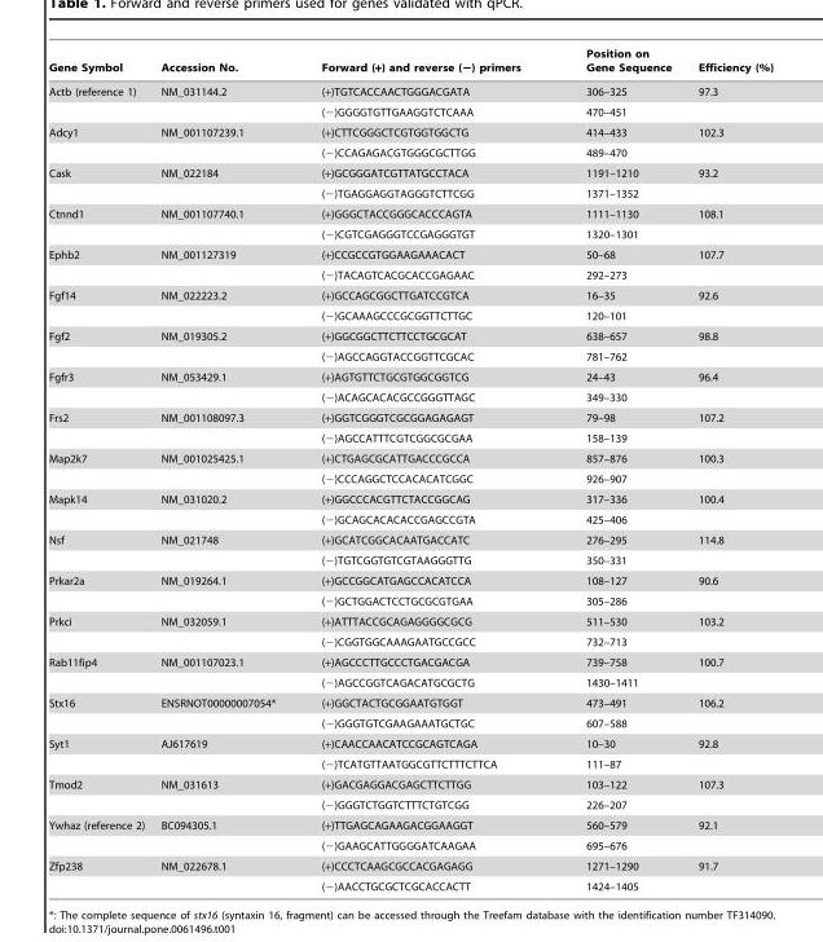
<table><thead><tr><td>Gene Symbol</td><td>Accession No.</td><td>Forward (+) and reverse (−) primers</td><td>Position on Gene Sequence</td><td>Efficiency (%)</td></tr></thead><tbody><tr><td rowspan="2">Actb (reference 1)</td><td>NM_031144.2</td><td>(+)TGTCACCAACTGGGACGATA</td><td>306–325</td><td>97.3</td></tr><tr><td></td><td>(−)GGGGTGTTGAAGGTCTCAAA</td><td>470–451</td><td></td></tr><tr><td rowspan="2">Adcy1</td><td>NM_001107239.1</td><td>(+)CTTCGGGCTCGTGGTGGCTG</td><td>414–433</td><td>102.3</td></tr><tr><td></td><td>(−)CCAGAGACGTGGGCGCTTGG</td><td>489–470</td><td></td></tr><tr><td rowspan="2">Cask</td><td>NM_022184</td><td>(+)GCGGGATCGTTATGCCTACA</td><td>1191–1210</td><td>93.2</td></tr><tr><td></td><td>(−)TGAGGAGGTAGGGTCTTCGG</td><td>1371–1352</td><td></td></tr><tr><td rowspan="2">Ctnnd1</td><td>NM_001107740.1</td><td>(+)GGGCTACCGGGCACCCAGTA</td><td>1111–1130</td><td>108.1</td></tr><tr><td></td><td>(−)CGTCGAGGGTCCGAGGGTGT</td><td>1320–1301</td><td></td></tr><tr><td rowspan="2">Ephb2</td><td>NM_001127319</td><td>(+)CCGCCGTGGAAGAAACACT</td><td>50–68</td><td>107.7</td></tr><tr><td></td><td>(−)TACAGTCACGCACCGAGAAC</td><td>292–273</td><td></td></tr><tr><td rowspan="2">Fgf14</td><td>NM_022223.2</td><td>(+)GCCAGCGGCTTGATCCGTCA</td><td>16–35</td><td>92.6</td></tr><tr><td></td><td>(−)GCAAAGCCCGCGGTTCTTGC</td><td>120–101</td><td></td></tr><tr><td rowspan="2">Fgf2</td><td>NM_019305.2</td><td>(+)GGCGGCTTCTTCCTGCGCAT</td><td>638–657</td><td>98.8</td></tr><tr><td></td><td>(−)AGCCAGGTACCGGTTCGCAC</td><td>781–762</td><td></td></tr><tr><td rowspan="2">Fgfr3</td><td>NM_053429.1</td><td>(+)AGTGTTCTGCGTGGCGGTCG</td><td>24–43</td><td>96.4</td></tr><tr><td></td><td>(−)ACAGCACACGCCGGGTTAGC</td><td>349–330</td><td></td></tr><tr><td rowspan="2">Frs2</td><td>NM_001108097.3</td><td>(+)GGTCGGGTCGCGGAGAGAGT</td><td>79–98</td><td>107.2</td></tr><tr><td></td><td>(−)AGCCATTTCGTCGGCGCGAA</td><td>158–139</td><td></td></tr><tr><td rowspan="2">Map2k7</td><td>NM_001025425.1</td><td>(+)CTGAGCGCATTGACCCGCCA</td><td>857–876</td><td>100.3</td></tr><tr><td></td><td>(−)CCCAGGCTCCACACATCGGC</td><td>926–907</td><td></td></tr><tr><td rowspan="2">Mapk14</td><td>NM_031020.2</td><td>(+)GGCCCACGTTCTACCGGCAG</td><td>317–336</td><td>100.4</td></tr><tr><td></td><td>(−)GCAGCACACACCGAGCCGTA</td><td>425–406</td><td></td></tr><tr><td rowspan="2">Nsf</td><td>NM_021748</td><td>(+)GCATCGGCACAATGACCATC</td><td>276–295</td><td>114.8</td></tr><tr><td></td><td>(−)TGTCGGTGTCGTAAGGGTTG</td><td>350–331</td><td></td></tr><tr><td rowspan="2">Prkar2a</td><td>NM_019264.1</td><td>(+)GCCGGCATGAGCCACATCCA</td><td>108–127</td><td>90.6</td></tr><tr><td></td><td>(−)GCTGGACTCCTGCGCGTGAA</td><td>305–286</td><td></td></tr><tr><td rowspan="2">Prkci</td><td>NM_032059.1</td><td>(+)ATTTACCGCAGAGGGGCGCG</td><td>511–530</td><td>103.2</td></tr><tr><td></td><td>(−)CGGTGGCAAAGAATGCCGCC</td><td>732–713</td><td></td></tr><tr><td rowspan="2">Rab11fip4</td><td>NM_001107023.1</td><td>(+)AGCCCTTGCCCTGACGACGA</td><td>739–758</td><td>100.7</td></tr><tr><td></td><td>(−)AGCCGGTCAGACATGCGCTG</td><td>1430–1411</td><td></td></tr><tr><td rowspan="2">Stx16</td><td>ENSRNOT00000007054*</td><td>(+)GGCTACTGCGGAATGTGGT</td><td>473–491</td><td>106.2</td></tr><tr><td></td><td>(−)GGGTGTCGAAGAAATGCTGC</td><td>607–588</td><td></td></tr><tr><td rowspan="2">Syt1</td><td>AJ617619</td><td>(+)CAACCAACATCCGCAGTCAGA</td><td>10–30</td><td>92.8</td></tr><tr><td></td><td>(−)TCATGTTAATGGCGTTCTTTCTTCA</td><td>111–87</td><td></td></tr><tr><td rowspan="2">Tmod2</td><td>NM_031613</td><td>(+)GACGAGGACGAGCTTCTTGG</td><td>103–122</td><td>107.3</td></tr><tr><td></td><td>(−)GGGTCTGGTCTTTCTGTCGG</td><td>226–207</td><td></td></tr><tr><td rowspan="2">Ywhaz (reference 2)</td><td>BC094305.1</td><td>(+)TTGAGCAGAAGACGGAAGGT</td><td>560–579</td><td>92.1</td></tr><tr><td></td><td>(−)GAAGCATTGGGGATCAAGAA</td><td>695–676</td><td></td></tr><tr><td rowspan="2">Zfp238</td><td>NM_022678.1</td><td>(+)CCCTCAAGCGCCACGAGAGG</td><td>1271–1290</td><td>91.7</td></tr><tr><td></td><td>(−)AACCTGCGCTCGCACCACTT</td><td>1424–1405</td><td></td></tr></tbody></table>